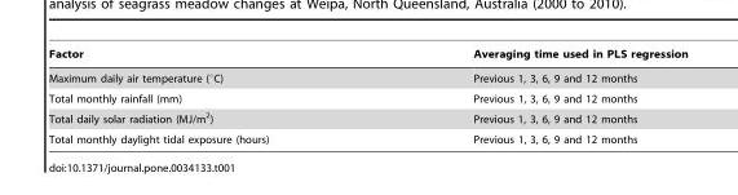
<table><thead><tr><td>Factor</td><td>Averaging time used in PLS regression</td></tr></thead><tbody><tr><td>Maximum daily air temperature (°C)</td><td>Previous 1, 3, 6, 9 and 12 months</td></tr><tr><td>Total monthly rainfall (mm)</td><td>Previous 1, 3, 6, 9 and 12 months</td></tr><tr><td>Total daily solar radiation (MJ/m<sup>2</sup>)</td><td>Previous 1, 3, 6, 9 and 12 months</td></tr><tr><td>Total monthly daylight tidal exposure (hours)</td><td>Previous 1, 3, 6, 9 and 12 months</td></tr></tbody></table>